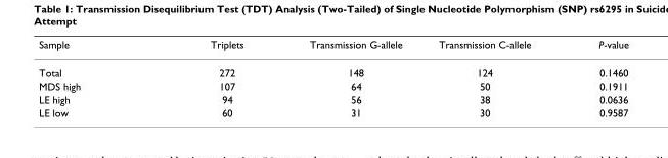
<table><thead><tr><td>Sample</td><td>Triplets</td><td>Transmission G-allele</td><td>Transmission C-allele</td><td>P-value</td></tr></thead><tbody><tr><td>Total</td><td>272</td><td>148</td><td>124</td><td>0.1460</td></tr><tr><td>MDS high</td><td>107</td><td>64</td><td>50</td><td>0.1911</td></tr><tr><td>LE high</td><td>94</td><td>56</td><td>38</td><td>0.0636</td></tr><tr><td>LE low</td><td>60</td><td>31</td><td>30</td><td>0.9587</td></tr></tbody></table>